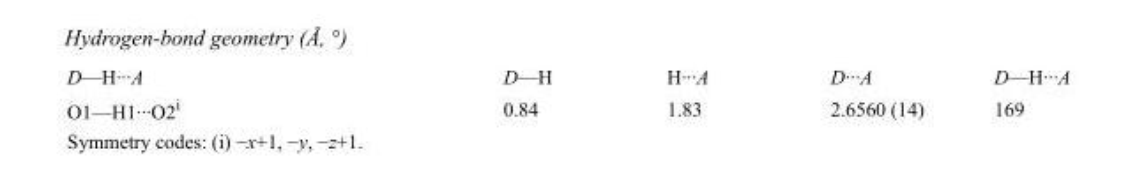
<table><tbody><tr><td>D—H···A</td><td>D—H</td><td>H···A</td><td>D···A</td><td>D—H···A</td></tr><tr><td>O1—H1···O2<sup>i</sup></td><td>0.84</td><td>1.83</td><td>2.6560 (14)</td><td>169</td></tr></tbody></table>